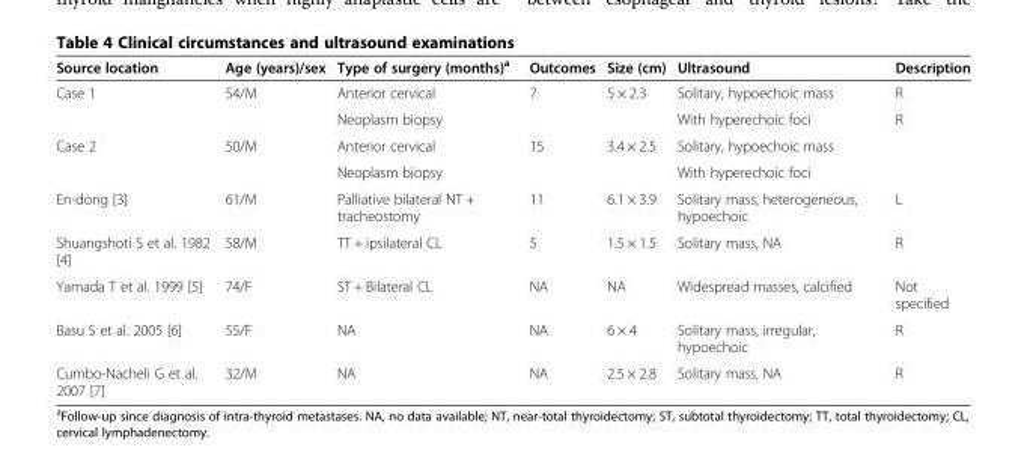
<table><thead><tr><td>Source location</td><td>Age (years)/sex</td><td>Type of surgery (months)<sup>a</sup></td><td>Outcomes</td><td>Size (cm)</td><td>Ultrasound</td><td>Description</td></tr></thead><tbody><tr><td rowspan="2">Case 1</td><td>54/M</td><td>Anterior cervical</td><td>7</td><td>5 × 2.3</td><td>Solitary, hypoechoic mass</td><td>R</td></tr><tr><td></td><td>Neoplasm biopsy</td><td></td><td></td><td>With hyperechoic foci</td><td>R</td></tr><tr><td rowspan="2">Case 2</td><td>50/M</td><td>Anterior cervical</td><td>15</td><td>3.4 × 2.5</td><td>Solitary, hypoechoic mass</td><td></td></tr><tr><td></td><td>Neoplasm biopsy</td><td></td><td></td><td>With hyperechoic foci</td><td></td></tr><tr><td>En-dong [3]</td><td>61/M</td><td>Palliative bilateral NT + tracheostomy</td><td>11</td><td>6.1 × 3.9</td><td>Solitary mass, heterogeneous, hypoechoic</td><td>L</td></tr><tr><td>Shuangshoti S et al. 1982 [4]</td><td>58/M</td><td>TT + ipsilateral CL</td><td>5</td><td>1.5 × 1.5</td><td>Solitary mass, NA</td><td>R</td></tr><tr><td>Yamada T et al. 1999 [5]</td><td>74/F</td><td>ST + Bilateral CL</td><td>NA</td><td>NA</td><td>Widespread masses, calcified</td><td>Not specified</td></tr><tr><td>Basu S et al. 2005 [6]</td><td>55/F</td><td>NA</td><td>NA</td><td>6 × 4</td><td>Solitary mass, irregular, hypoechoic</td><td>R</td></tr><tr><td>Cumbo-Nacheli G et al. 2007 [7]</td><td>32/M</td><td>NA</td><td>NA</td><td>2.5 × 2.8</td><td>Solitary mass, NA</td><td>R</td></tr></tbody></table>